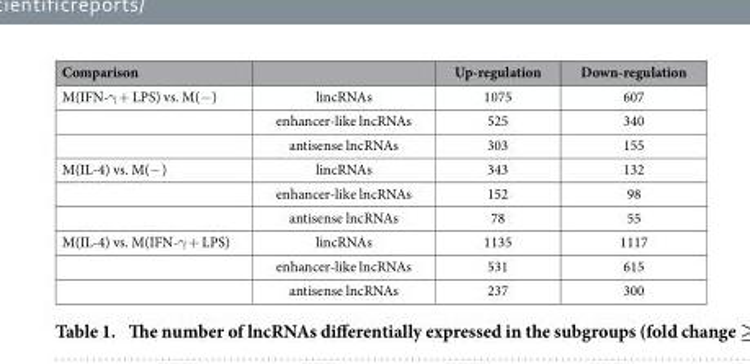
<table><thead><tr><td>Comparison</td><td></td><td>Up-regulation</td><td>Down-regulation</td></tr></thead><tbody><tr><td rowspan="3">M(IFN-γ + LPS) vs. M(− )</td><td>lincRNAs</td><td>1075</td><td>607</td></tr><tr><td>enhancer-like lncRNAs</td><td>525</td><td>340</td></tr><tr><td>antisense lncRNAs</td><td>303</td><td>155</td></tr><tr><td rowspan="3">M(IL-4) vs. M(− )</td><td>lincRNAs</td><td>343</td><td>132</td></tr><tr><td>enhancer-like lncRNAs</td><td>152</td><td>98</td></tr><tr><td>antisense lncRNAs</td><td>78</td><td>55</td></tr><tr><td rowspan="3">M(IL-4) vs. M(IFN-γ + LPS)</td><td>lincRNAs</td><td>1135</td><td>1117</td></tr><tr><td>enhancer-like lncRNAs</td><td>531</td><td>615</td></tr><tr><td>antisense lncRNAs</td><td>237</td><td>300</td></tr></tbody></table>